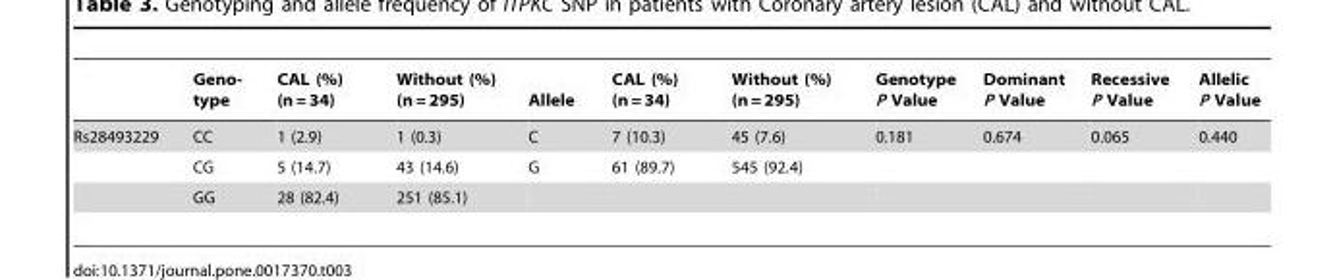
<table><thead><tr><td></td><td>Geno- type</td><td>CAL (%) (n = 34)</td><td>Without (%) (n = 295)</td><td>Allele</td><td>CAL (%) (n = 34)</td><td>Without (%) (n = 295)</td><td>Genotype P Value</td><td>Dominant P Value</td><td>Recessive P Value</td><td>Allelic P Value</td></tr></thead><tbody><tr><td rowspan="3">Rs28493229</td><td>CC</td><td>1 (2.9)</td><td>1 (0.3)</td><td>C</td><td>7 (10.3)</td><td>45 (7.6)</td><td>0.181</td><td>0.674</td><td>0.065</td><td>0.440</td></tr><tr><td>CG</td><td>5 (14.7)</td><td>43 (14.6)</td><td>G</td><td>61 (89.7)</td><td>545 (92.4)</td><td></td><td></td><td></td><td></td></tr><tr><td>GG</td><td>28 (82.4)</td><td>251 (85.1)</td><td></td><td></td><td></td><td></td><td></td><td></td><td></td></tr></tbody></table>